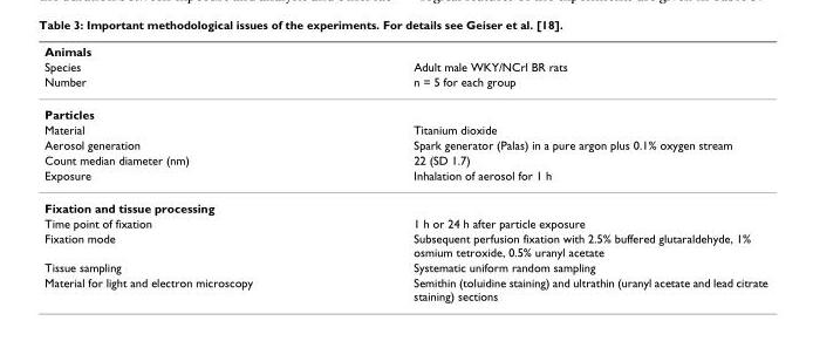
<table><thead><tr><td rowspan="3">Animals Species Number</td><td rowspan="3">Adult male WKY/NCrl BR rats n = 5 for each group</td></tr><tr></tr><tr></tr></thead><tbody><tr><td colspan="2">Particles</td></tr><tr><td>Material</td><td>Titanium dioxide</td></tr><tr><td>Aerosol generation</td><td>Spark generator (Palas) in a pure argon plus 0.1% oxygen stream</td></tr><tr><td>Count median diameter (nm)</td><td>22 (SD 1.7)</td></tr><tr><td>Exposure</td><td>Inhalation of aerosol for 1 h</td></tr><tr><td colspan="2">Fixation and tissue processing</td></tr><tr><td>Time point of fixation</td><td>1 h or 24 h after particle exposure</td></tr><tr><td>Fixation mode</td><td>Subsequent perfusion fixation with 2.5% buffered glutaraldehyde, 1% osmium tetroxide, 0.5% uranyl acetate</td></tr><tr><td>Tissue sampling</td><td>Systematic uniform random sampling</td></tr><tr><td>Material for light and electron microscopy</td><td>Semithin (toluidine staining) and ultrathin (uranyl acetate and lead citrate staining) sections</td></tr></tbody></table>